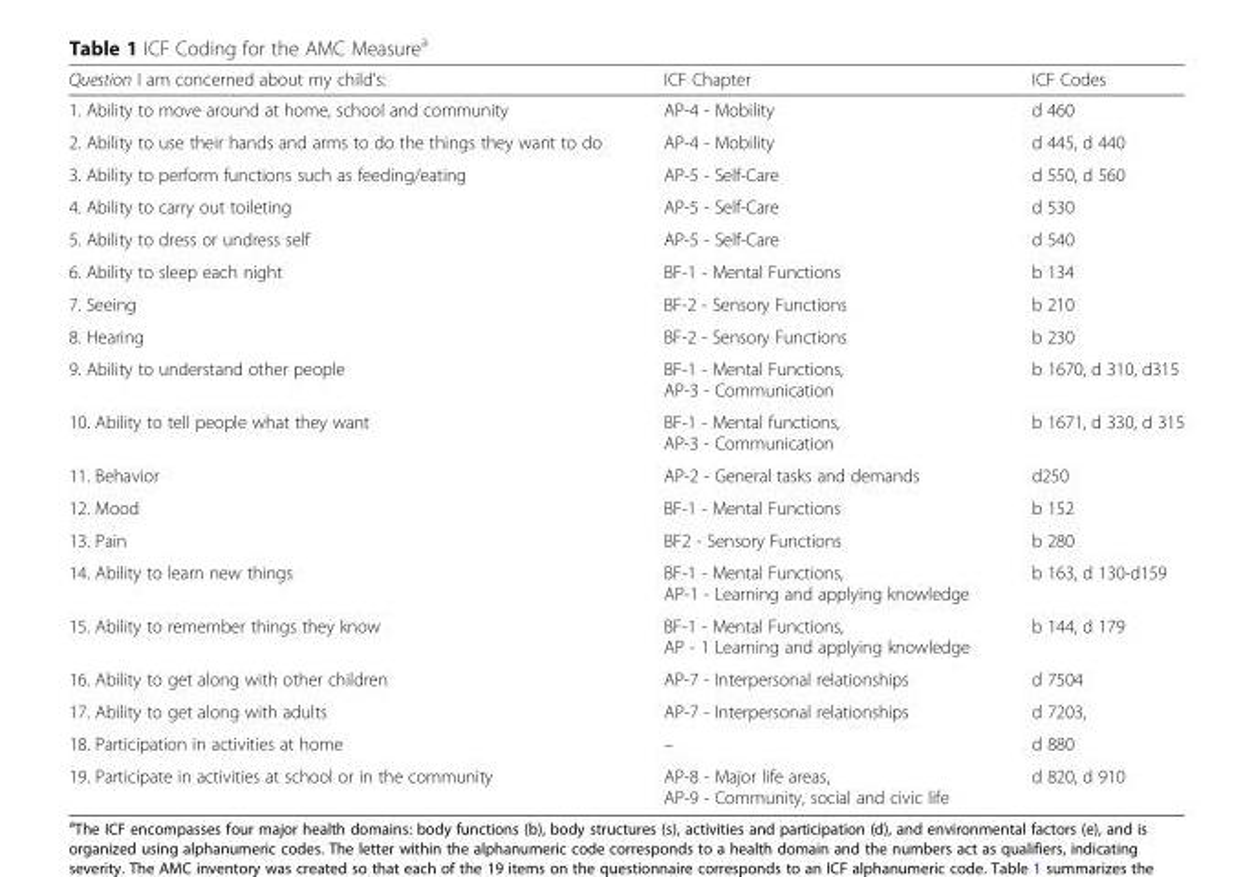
<table><thead><tr><td>Question I am concerned about my child’s:</td><td>ICF Chapter</td><td>ICF Codes</td></tr></thead><tbody><tr><td>1. Ability to move around at home, school and community</td><td>AP-4 - Mobility</td><td>d 460</td></tr><tr><td>2. Ability to use their hands and arms to do the things they want to do</td><td>AP-4 - Mobility</td><td>d 445, d 440</td></tr><tr><td>3. Ability to perform functions such as feeding/eating</td><td>AP-5 - Self-Care</td><td>d 550, d 560</td></tr><tr><td>4. Ability to carry out toileting</td><td>AP-5 - Self-Care</td><td>d 530</td></tr><tr><td>5. Ability to dress or undress self</td><td>AP-5 - Self-Care</td><td>d 540</td></tr><tr><td>6. Ability to sleep each night</td><td>BF-1 - Mental Functions</td><td>b 134</td></tr><tr><td>7. Seeing</td><td>BF-2 - Sensory Functions</td><td>b 210</td></tr><tr><td>8. Hearing</td><td>BF-2 - Sensory Functions</td><td>b 230</td></tr><tr><td>9. Ability to understand other people</td><td>BF-1 - Mental Functions, AP-3 - Communication</td><td>b 1670, d 310, d315</td></tr><tr><td>10. Ability to tell people what they want</td><td>BF-1 - Mental functions, AP-3 - Communication</td><td>b 1671, d 330, d 315</td></tr><tr><td>11. Behavior</td><td>AP-2 - General tasks and demands</td><td>d250</td></tr><tr><td>12. Mood</td><td>BF-1 - Mental Functions</td><td>b 152</td></tr><tr><td>13. Pain</td><td>BF2 - Sensory Functions</td><td>b 280</td></tr><tr><td>14. Ability to learn new things</td><td>BF-1 - Mental Functions, AP-1 - Learning and applying knowledge</td><td>b 163, d 130-d159</td></tr><tr><td>15. Ability to remember things they know</td><td>BF-1 - Mental Functions, AP - 1 Learning and applying knowledge</td><td>b 144, d 179</td></tr><tr><td>16. Ability to get along with other children</td><td>AP-7 - Interpersonal relationships</td><td>d 7504</td></tr><tr><td>17. Ability to get along with adults</td><td>AP-7 - Interpersonal relationships</td><td>d 7203,</td></tr><tr><td>18. Participation in activities at home</td><td>–</td><td>d 880</td></tr><tr><td>19. Participate in activities at school or in the community</td><td>AP-8 - Major life areas, AP-9 - Community, social and civic life</td><td>d 820, d 910</td></tr></tbody></table>